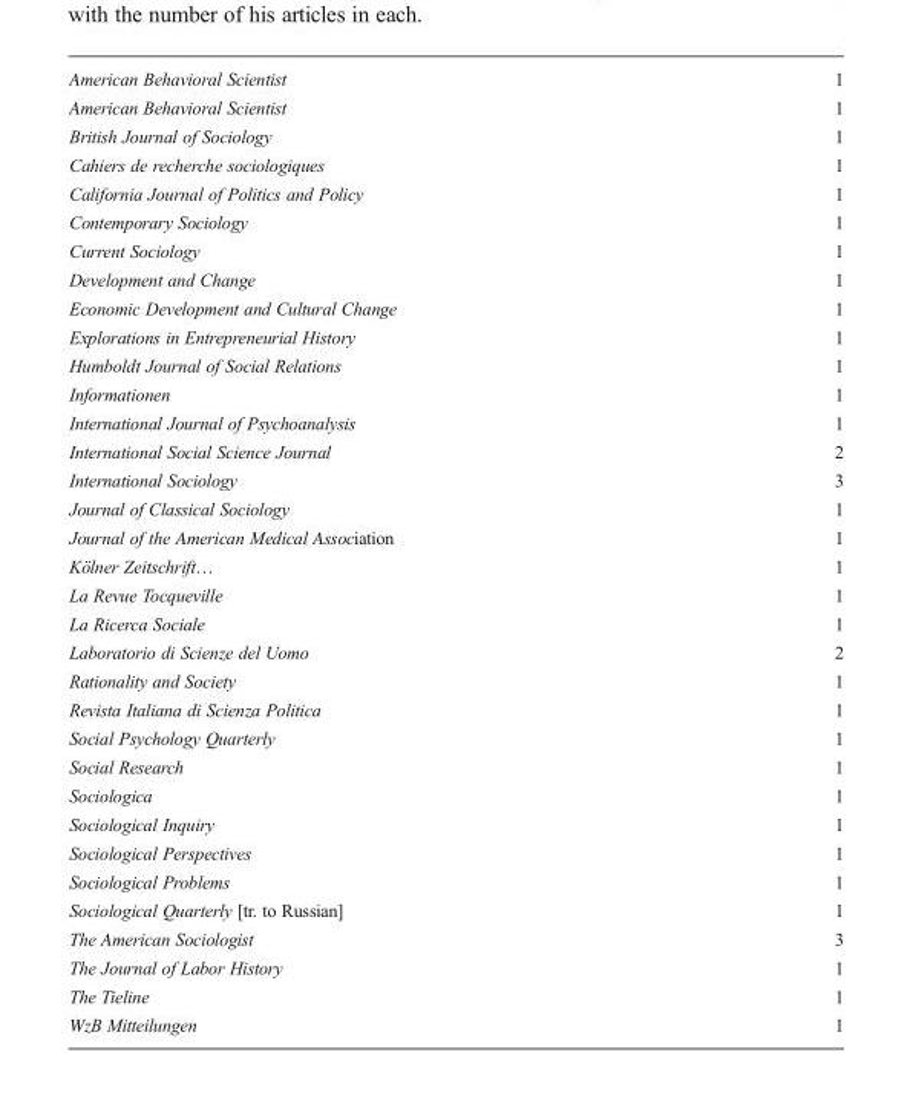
<table><tbody><tr><td>American Behavioral Scientist</td><td>1</td></tr><tr><td>American Behavioral Scientist</td><td>1</td></tr><tr><td>British Journal of Sociology</td><td>1</td></tr><tr><td>Cahiers de recherche sociologiques</td><td>1</td></tr><tr><td>California Journal of Politics and Policy</td><td>1</td></tr><tr><td>Contemporary Sociology</td><td>1</td></tr><tr><td>Current Sociology</td><td>1</td></tr><tr><td>Development and Change</td><td>1</td></tr><tr><td>Economic Development and Cultural Change</td><td>1</td></tr><tr><td>Explorations in Entrepreneurial History</td><td>1</td></tr><tr><td>Humboldt Journal of Social Relations</td><td>1</td></tr><tr><td>Informationen</td><td>1</td></tr><tr><td>International Journal of Psychoanalysis</td><td>1</td></tr><tr><td>International Social Science Journal</td><td>2</td></tr><tr><td>International Sociology</td><td>3</td></tr><tr><td>Journal of Classical Sociology</td><td>1</td></tr><tr><td>Journal of the American Medical Association</td><td>1</td></tr><tr><td>Kölner Zeitschrift…</td><td>1</td></tr><tr><td>La Revue Tocqueville</td><td>1</td></tr><tr><td>La Ricerca Sociale</td><td>1</td></tr><tr><td>Laboratorio di Scienze del Uomo</td><td>2</td></tr><tr><td>Rationality and Society</td><td>1</td></tr><tr><td>Revista Italiana di Scienza Politica</td><td>1</td></tr><tr><td>Social Psychology Quarterly</td><td>1</td></tr><tr><td>Social Research</td><td>1</td></tr><tr><td>Sociologica</td><td>1</td></tr><tr><td>Sociological Inquiry</td><td>1</td></tr><tr><td>Sociological Perspectives</td><td>1</td></tr><tr><td>Sociological Problems</td><td>1</td></tr><tr><td>Sociological Quarterly [tr. to Russian]</td><td>1</td></tr><tr><td>The American Sociologist</td><td>3</td></tr><tr><td>The Journal of Labor History</td><td>1</td></tr><tr><td>The Tieline</td><td>1</td></tr><tr><td>WzB Mitteilungen</td><td>1</td></tr></tbody></table>